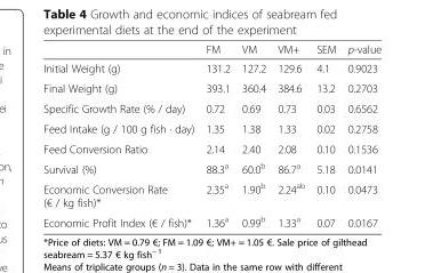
<table><thead><tr><td></td><td>FM</td><td>VM</td><td>VM+</td><td>SEM</td><td>p-value</td></tr></thead><tbody><tr><td>Initial Weight (g)</td><td>131.2</td><td>127.2</td><td>129.6</td><td>4.1</td><td>0.9023</td></tr><tr><td>Final Weight (g)</td><td>393.1</td><td>360.4</td><td>384.6</td><td>13.2</td><td>0.2703</td></tr><tr><td>Specific Growth Rate (% / day)</td><td>0.72</td><td>0.69</td><td>0.73</td><td>0.03</td><td>0.6562</td></tr><tr><td>Feed Intake (g / 100 g fish · day)</td><td>1.35</td><td>1.38</td><td>1.33</td><td>0.02</td><td>0.2758</td></tr><tr><td>Feed Conversion Ratio</td><td>2.14</td><td>2.40</td><td>2.08</td><td>0.10</td><td>0.1536</td></tr><tr><td>Survival (%)</td><td>88.3<sup>a</sup></td><td>60.0<sup>b</sup></td><td>86.7<sup>a</sup></td><td>5.18</td><td>0.0141</td></tr><tr><td>Economic Conversion Rate (€ / kg fish)*</td><td>2.35<sup>a</sup></td><td>1.90<sup>b</sup></td><td>2.24<sup>ab</sup></td><td>0.10</td><td>0.0473</td></tr><tr><td>Economic Profit Index (€ / fish)*</td><td>1.36<sup>a</sup></td><td>0.99<sup>b</sup></td><td>1.33<sup>a</sup></td><td>0.07</td><td>0.0167</td></tr></tbody></table>